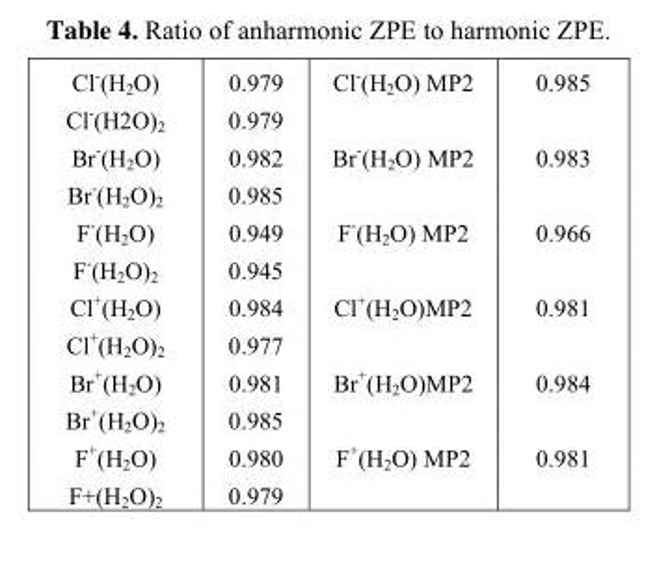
<table><tbody><tr><td>Cl<sup>-</sup>(H<sub>2</sub>O)</td><td>0.979</td><td>Cl<sup>-</sup>(H<sub>2</sub>O) MP2</td><td>0.985</td></tr><tr><td>Cl<sup>-</sup>(H2O)<sub>2</sub></td><td>0.979</td><td></td><td></td></tr><tr><td>Br<sup>-</sup>(H<sub>2</sub>O)</td><td>0.982</td><td>Br<sup>-</sup>(H<sub>2</sub>O) MP2</td><td>0.983</td></tr><tr><td>Br<sup>-</sup>(H<sub>2</sub>O)<sub>2</sub></td><td>0.985</td><td></td><td></td></tr><tr><td>F<sup>-</sup>(H<sub>2</sub>O)</td><td>0.949</td><td>F<sup>-</sup>(H<sub>2</sub>O) MP2</td><td>0.966</td></tr><tr><td>F<sup>-</sup>(H<sub>2</sub>O)<sub>2</sub></td><td>0.945</td><td></td><td></td></tr><tr><td>Cl<sup>+</sup>(H<sub>2</sub>O)</td><td>0.984</td><td>Cl<sup>+</sup>(H<sub>2</sub>O)MP2</td><td>0.981</td></tr><tr><td>Cl<sup>+</sup>(H<sub>2</sub>O)<sub>2</sub></td><td>0.977</td><td></td><td></td></tr><tr><td>Br<sup>+</sup>(H<sub>2</sub>O)</td><td>0.981</td><td>Br<sup>+</sup>(H<sub>2</sub>O)MP2</td><td>0.984</td></tr><tr><td>Br<sup>+</sup>(H<sub>2</sub>O)<sub>2</sub></td><td>0.985</td><td></td><td></td></tr><tr><td>F<sup>+</sup>(H<sub>2</sub>O)</td><td>0.980</td><td>F<sup>+</sup>(H<sub>2</sub>O) MP2</td><td>0.981</td></tr><tr><td>F+(H<sub>2</sub>O)<sub>2</sub></td><td>0.979</td><td></td><td></td></tr></tbody></table>